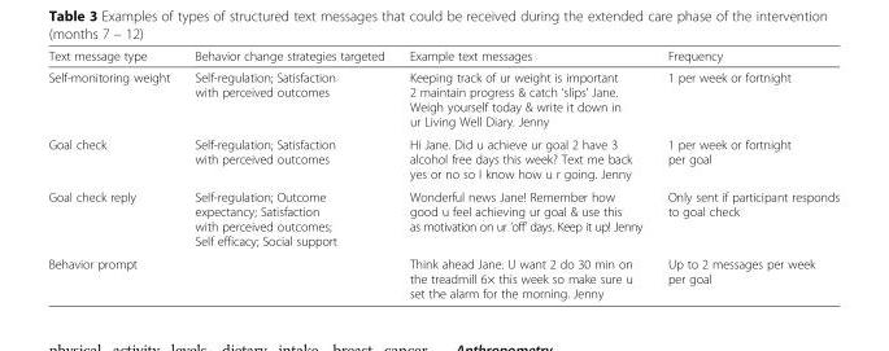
<table><thead><tr><td>Text message type</td><td>Behavior change strategies targeted</td><td>Example text messages</td><td>Frequency</td></tr></thead><tbody><tr><td>Self-monitoring weight</td><td>Self-regulation; Satisfaction with perceived outcomes</td><td>Keeping track of ur weight is important 2 maintain progress &amp; catch ‘slips’ Jane. Weigh yourself today &amp; write it down in ur Living Well Diary. Jenny</td><td>1 per week or fortnight</td></tr><tr><td>Goal check</td><td>Self-regulation; Satisfaction with perceived outcomes</td><td>Hi Jane. Did u achieve ur goal 2 have 3 alcohol free days this week? Text me back yes or no so I know how u r going. Jenny</td><td>1 per week or fortnight per goal</td></tr><tr><td>Goal check reply</td><td>Self-regulation; Outcome expectancy; Satisfaction with perceived outcomes; Self efficacy; Social support</td><td>Wonderful news Jane! Remember how good u feel achieving ur goal &amp; use this as motivation on ur ‘off’ days. Keep it up! Jenny</td><td>Only sent if participant responds to goal check</td></tr><tr><td>Behavior prompt</td><td></td><td>Think ahead Jane. U want 2 do 30 min on the treadmill 6× this week so make sure u set the alarm for the morning. Jenny</td><td>Up to 2 messages per week per goal</td></tr></tbody></table>